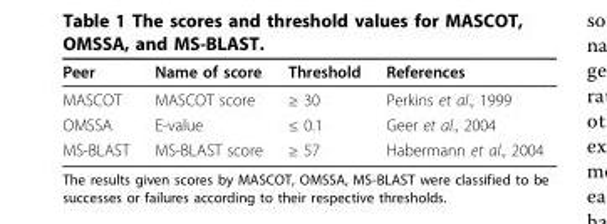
<table><thead><tr><td>Peer</td><td>Name of score</td><td>Threshold</td><td>References</td></tr></thead><tbody><tr><td>MASCOT</td><td>MASCOT score</td><td>≥ 30</td><td>Perkins et al., 1999</td></tr><tr><td>OMSSA</td><td>E-value</td><td>≤ 0.1</td><td>Geer et al., 2004</td></tr><tr><td>MS-BLAST</td><td>MS-BLAST score</td><td>≥ 57</td><td>Habermann et al., 2004</td></tr></tbody></table>